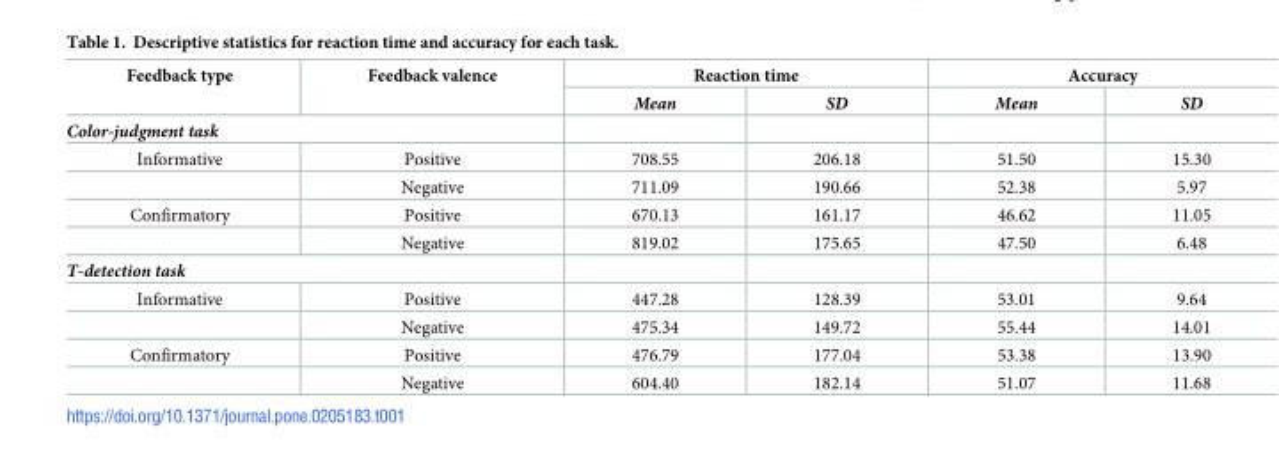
<table><thead><tr><td rowspan="2">Feedback type</td><td rowspan="2">Feedback valence</td><td colspan="2">Reaction time</td><td colspan="2">Accuracy</td></tr><tr><td>Mean</td><td>SD</td><td>Mean</td><td>SD</td></tr></thead><tbody><tr><td colspan="6">Color-judgment task</td></tr><tr><td rowspan="2">Informative</td><td>Positive</td><td>708.55</td><td>206.18</td><td>51.50</td><td>15.30</td></tr><tr><td>Negative</td><td>711.09</td><td>190.66</td><td>52.38</td><td>5.97</td></tr><tr><td rowspan="2">Confirmatory</td><td>Positive</td><td>670.13</td><td>161.17</td><td>46.62</td><td>11.05</td></tr><tr><td>Negative</td><td>819.02</td><td>175.65</td><td>47.50</td><td>6.48</td></tr><tr><td colspan="6">T-detection task</td></tr><tr><td rowspan="2">Informative</td><td>Positive</td><td>447.28</td><td>128.39</td><td>53.01</td><td>9.64</td></tr><tr><td>Negative</td><td>475.34</td><td>149.72</td><td>55.44</td><td>14.01</td></tr><tr><td rowspan="2">Confirmatory</td><td>Positive</td><td>476.79</td><td>177.04</td><td>53.38</td><td>13.90</td></tr><tr><td>Negative</td><td>604.40</td><td>182.14</td><td>51.07</td><td>11.68</td></tr></tbody></table>